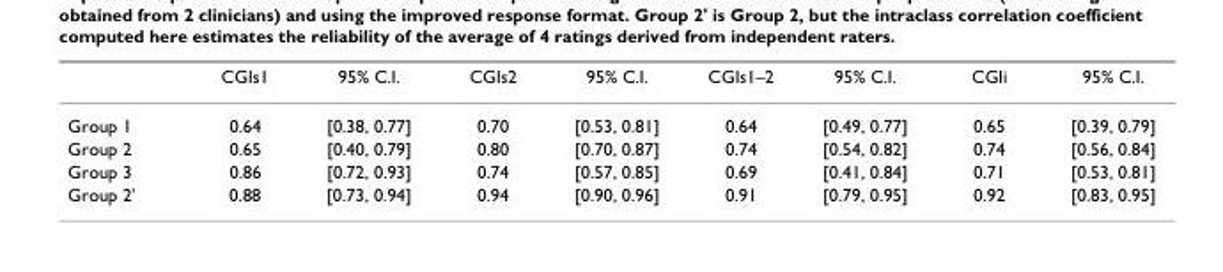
<table><thead><tr><td></td><td>CGIs1</td><td>95% C.I.</td><td>CGIs2</td><td>95% C.I.</td><td>CGIs1–2</td><td>95% C.I.</td><td>CGIi</td><td>95% C.I.</td></tr></thead><tbody><tr><td>Group 1</td><td>0.64</td><td>[0.38, 0.77]</td><td>0.70</td><td>[0.53, 0.81]</td><td>0.64</td><td>[0.49, 0.77]</td><td>0.65</td><td>[0.39, 0.79]</td></tr><tr><td>Group 2</td><td>0.65</td><td>[0.40, 0.79]</td><td>0.80</td><td>[0.70, 0.87]</td><td>0.74</td><td>[0.54, 0.82]</td><td>0.74</td><td>[0.56, 0.84]</td></tr><tr><td>Group 3</td><td>0.86</td><td>[0.72, 0.93]</td><td>0.74</td><td>[0.57, 0.85]</td><td>0.69</td><td>[0.41, 0.84]</td><td>0.71</td><td>[0.53, 0.81]</td></tr><tr><td>Group 2&#x27;</td><td>0.88</td><td>[0.73, 0.94]</td><td>0.94</td><td>[0.90, 0.96]</td><td>0.91</td><td>[0.79, 0.95]</td><td>0.92</td><td>[0.83, 0.95]</td></tr></tbody></table>